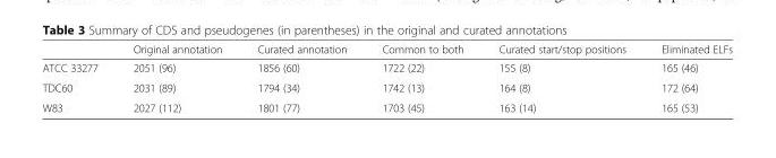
<table><thead><tr><td></td><td>Original annotation</td><td>Curated annotation</td><td>Common to both</td><td>Curated start/stop positions</td><td>Eliminated ELFs</td></tr></thead><tbody><tr><td>ATCC 33277</td><td>2051 (96)</td><td>1856 (60)</td><td>1722 (22)</td><td>155 (8)</td><td>165 (46)</td></tr><tr><td>TDC60</td><td>2031 (89)</td><td>1794 (34)</td><td>1742 (13)</td><td>164 (8)</td><td>172 (64)</td></tr><tr><td>W83</td><td>2027 (112)</td><td>1801 (77)</td><td>1703 (45)</td><td>163 (14)</td><td>165 (53)</td></tr></tbody></table>